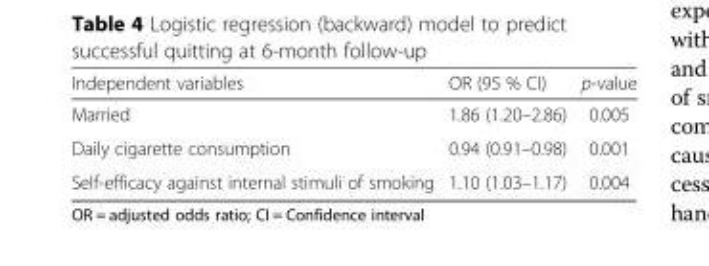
<table><thead><tr><td>Independent variables</td><td>OR (95 % CI)</td><td>p-value</td></tr></thead><tbody><tr><td>Married</td><td>1.86 (1.20–2.86)</td><td>0.005</td></tr><tr><td>Daily cigarette consumption</td><td>0.94 (0.91–0.98)</td><td>0.001</td></tr><tr><td>Self-efficacy against internal stimuli of smoking</td><td>1.10 (1.03–1.17)</td><td>0.004</td></tr></tbody></table>